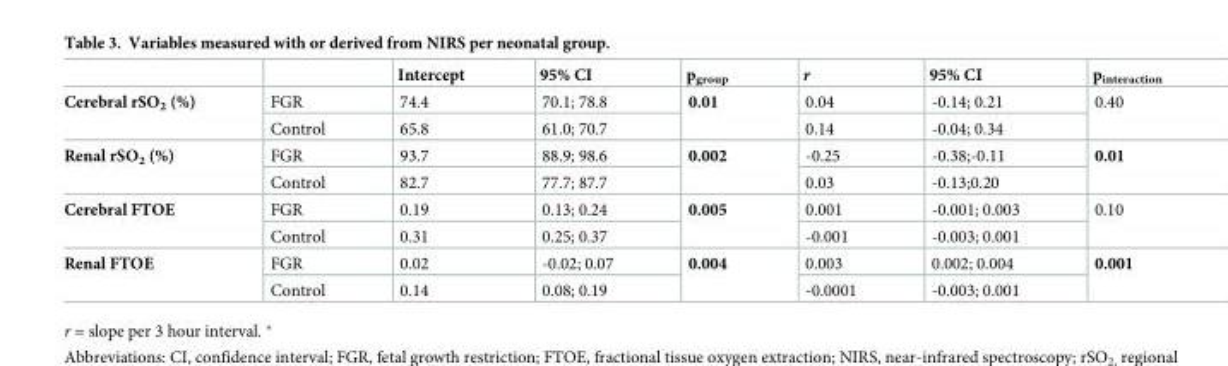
<table><thead><tr><td></td><td></td><td>Intercept</td><td>95% CI</td><td>p<sub>group</sub></td><td>r</td><td>95% CI</td><td>p<sub>interaction</sub></td></tr></thead><tbody><tr><td rowspan="2">Cerebral rSO<sub>2</sub> (%)</td><td>FGR</td><td>74.4</td><td>70.1; 78.8</td><td rowspan="2">0.01</td><td>0.04</td><td>-0.14; 0.21</td><td rowspan="2">0.40</td></tr><tr><td>Control</td><td>65.8</td><td>61.0; 70.7</td><td>0.14</td><td>-0.04; 0.34</td></tr><tr><td rowspan="2">Renal rSO<sub>2</sub> (%)</td><td>FGR</td><td>93.7</td><td>88.9; 98.6</td><td rowspan="2">0.002</td><td>-0.25</td><td>-0.38;-0.11</td><td rowspan="2">0.01</td></tr><tr><td>Control</td><td>82.7</td><td>77.7; 87.7</td><td>0.03</td><td>-0.13;0.20</td></tr><tr><td rowspan="2">Cerebral FTOE</td><td>FGR</td><td>0.19</td><td>0.13; 0.24</td><td rowspan="2">0.005</td><td>0.001</td><td>-0.001; 0.003</td><td rowspan="2">0.10</td></tr><tr><td>Control</td><td>0.31</td><td>0.25; 0.37</td><td>-0.001</td><td>-0.003; 0.001</td></tr><tr><td rowspan="2">Renal FTOE</td><td>FGR</td><td>0.02</td><td>-0.02; 0.07</td><td rowspan="2">0.004</td><td>0.003</td><td>0.002; 0.004</td><td rowspan="2">0.001</td></tr><tr><td>Control</td><td>0.14</td><td>0.08; 0.19</td><td>-0.0001</td><td>-0.003; 0.001</td></tr></tbody></table>